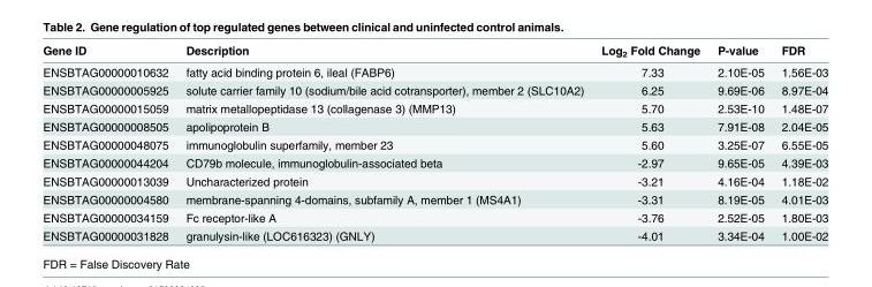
<table><thead><tr><td>Gene ID</td><td>Description</td><td>Log<sub>2</sub> Fold Change</td><td>P-value</td><td>FDR</td></tr></thead><tbody><tr><td>ENSBTAG00000010632</td><td>fatty acid binding protein 6, ileal (FABP6)</td><td>7.33</td><td>2.10E-05</td><td>1.56E-03</td></tr><tr><td>ENSBTAG00000005925</td><td>solute carrier family 10 (sodium/bile acid cotransporter), member 2 (SLC10A2)</td><td>6.25</td><td>9.69E-06</td><td>8.97E-04</td></tr><tr><td>ENSBTAG00000015059</td><td>matrix metallopeptidase 13 (collagenase 3) (MMP13)</td><td>5.70</td><td>2.53E-10</td><td>1.48E-07</td></tr><tr><td>ENSBTAG00000008505</td><td>apolipoprotein B</td><td>5.63</td><td>7.91E-08</td><td>2.04E-05</td></tr><tr><td>ENSBTAG00000048075</td><td>immunoglobulin superfamily, member 23</td><td>5.60</td><td>3.25E-07</td><td>6.55E-05</td></tr><tr><td>ENSBTAG00000044204</td><td>CD79b molecule, immunoglobulin-associated beta</td><td>-2.97</td><td>9.65E-05</td><td>4.39E-03</td></tr><tr><td>ENSBTAG00000013039</td><td>Uncharacterized protein</td><td>-3.21</td><td>4.16E-04</td><td>1.18E-02</td></tr><tr><td>ENSBTAG00000004580</td><td>membrane-spanning 4-domains, subfamily A, member 1 (MS4A1)</td><td>-3.31</td><td>8.19E-05</td><td>4.01E-03</td></tr><tr><td>ENSBTAG00000034159</td><td>Fc receptor-like A</td><td>-3.76</td><td>2.52E-05</td><td>1.80E-03</td></tr><tr><td>ENSBTAG00000031828</td><td>granulysin-like (LOC616323) (GNLY)</td><td>-4.01</td><td>3.34E-04</td><td>1.00E-02</td></tr></tbody></table>